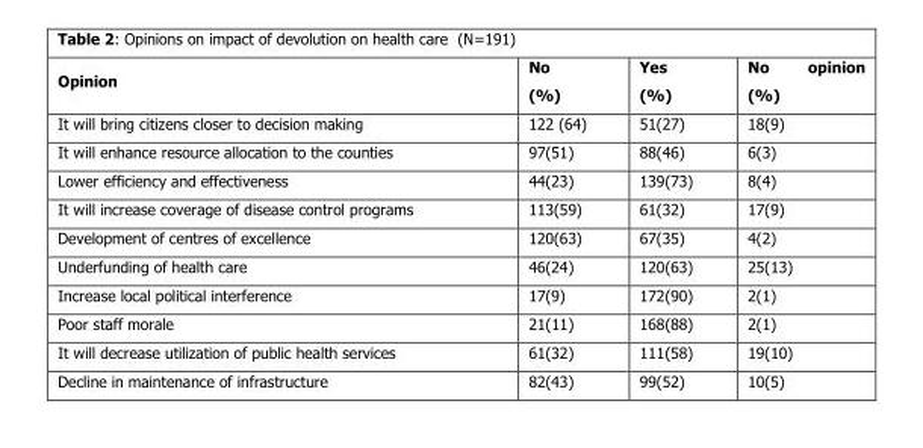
<table><thead><tr><td>Opinion</td><td>No (%)</td><td>Yes (%)</td><td>No opinion (%)</td></tr></thead><tbody><tr><td>It will bring citizens closer to decision making</td><td>122 (64)</td><td>51(27)</td><td>18(9)</td></tr><tr><td>It will enhance resource allocation to the counties</td><td>97(51)</td><td>88(46)</td><td>6(3)</td></tr><tr><td>Lower efficiency and effectiveness</td><td>44(23)</td><td>139(73)</td><td>8(4)</td></tr><tr><td>It will increase coverage of disease control programs</td><td>113(59)</td><td>61(32)</td><td>17(9)</td></tr><tr><td>Development of centres of excellence</td><td>120(63)</td><td>67(35)</td><td>4(2)</td></tr><tr><td>Underfunding of health care</td><td>46(24)</td><td>120(63)</td><td>25(13)</td></tr><tr><td>Increase local political interference</td><td>17(9)</td><td>172(90)</td><td>2(1)</td></tr><tr><td>Poor staff morale</td><td>21(11)</td><td>168(88)</td><td>2(1)</td></tr><tr><td>It will decrease utilization of public health services</td><td>61(32)</td><td>111(58)</td><td>19(10)</td></tr><tr><td>Decline in maintenance of infrastructure</td><td>82(43)</td><td>99(52)</td><td>10(5)</td></tr></tbody></table>